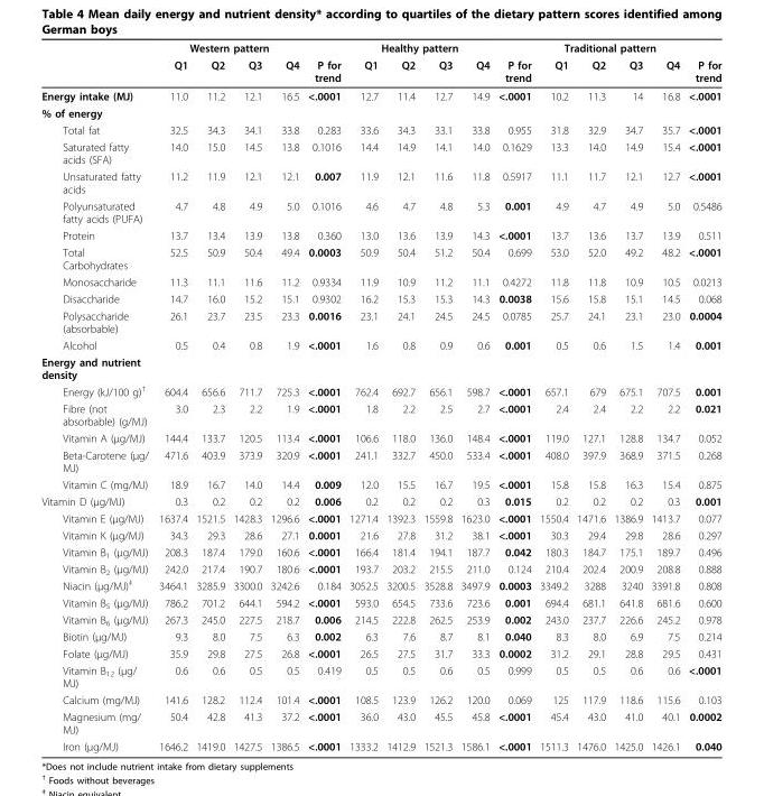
<table><thead><tr><td rowspan="2"></td><td colspan="4">Western pattern</td><td rowspan="2">P for trend</td><td colspan="4">Healthy pattern</td><td rowspan="2">P for trend</td><td colspan="4">Traditional pattern</td><td rowspan="2">P for trend</td></tr><tr><td>Q1</td><td>Q2</td><td>Q3</td><td>Q4</td><td>Q1</td><td>Q2</td><td>Q3</td><td>Q4</td><td>Q1</td><td>Q2</td><td>Q3</td><td>Q4</td></tr></thead><tbody><tr><td>Energy intake (MJ)</td><td>11.0</td><td>11.2</td><td>12.1</td><td>16.5</td><td>&lt;.0001</td><td>12.7</td><td>11.4</td><td>12.7</td><td>14.9</td><td>&lt;.0001</td><td>10.2</td><td>11.3</td><td>14</td><td>16.8</td><td>&lt;.0001</td></tr><tr><td colspan="16">% of energy</td></tr><tr><td>Total fat</td><td>32.5</td><td>34.3</td><td>34.1</td><td>33.8</td><td>0.283</td><td>33.6</td><td>34.3</td><td>33.1</td><td>33.8</td><td>0.955</td><td>31.8</td><td>32.9</td><td>34.7</td><td>35.7</td><td>&lt;.0001</td></tr><tr><td>Saturated fatty acids (SFA)</td><td>14.0</td><td>15.0</td><td>14.5</td><td>13.8</td><td>0.1016</td><td>14.4</td><td>14.9</td><td>14.1</td><td>14.0</td><td>0.1629</td><td>13.3</td><td>14.0</td><td>14.9</td><td>15.4</td><td>&lt;.0001</td></tr><tr><td>Unsaturated fatty acids</td><td>11.2</td><td>11.9</td><td>12.1</td><td>12.1</td><td>0.007</td><td>11.9</td><td>12.1</td><td>11.6</td><td>11.8</td><td>0.5917</td><td>11.1</td><td>11.7</td><td>12.1</td><td>12.7</td><td>&lt;.0001</td></tr><tr><td>Polyunsaturated fatty acids (PUFA)</td><td>4.7</td><td>4.8</td><td>4.9</td><td>5.0</td><td>0.1016</td><td>4.6</td><td>4.7</td><td>4.8</td><td>5.3</td><td>0.001</td><td>4.9</td><td>4.7</td><td>4.9</td><td>5.0</td><td>0.5486</td></tr><tr><td>Protein</td><td>13.7</td><td>13.4</td><td>13.9</td><td>13.8</td><td>0.360</td><td>13.0</td><td>13.6</td><td>13.9</td><td>14.3</td><td>&lt;.0001</td><td>13.7</td><td>13.6</td><td>13.7</td><td>13.9</td><td>0.511</td></tr><tr><td>Total Carbohydrates</td><td>52.5</td><td>50.9</td><td>50.4</td><td>49.4</td><td>0.0003</td><td>50.9</td><td>50.4</td><td>51.2</td><td>50.4</td><td>0.699</td><td>53.0</td><td>52.0</td><td>49.2</td><td>48.2</td><td>&lt;.0001</td></tr><tr><td>Monosaccharide</td><td>11.3</td><td>11.1</td><td>11.6</td><td>11.2</td><td>0.9334</td><td>11.9</td><td>10.9</td><td>11.2</td><td>11.1</td><td>0.4272</td><td>11.8</td><td>11.8</td><td>10.9</td><td>10.5</td><td>0.0213</td></tr><tr><td>Disaccharide</td><td>14.7</td><td>16.0</td><td>15.2</td><td>15.1</td><td>0.9302</td><td>16.2</td><td>15.3</td><td>15.3</td><td>14.3</td><td>0.0038</td><td>15.6</td><td>15.8</td><td>15.1</td><td>14.5</td><td>0.068</td></tr><tr><td>Polysaccharide (absorbable)</td><td>26.1</td><td>23.7</td><td>23.5</td><td>23.3</td><td>0.0016</td><td>23.1</td><td>24.1</td><td>24.5</td><td>24.5</td><td>0.0785</td><td>25.7</td><td>24.1</td><td>23.1</td><td>23.0</td><td>0.0004</td></tr><tr><td>Alcohol</td><td>0.5</td><td>0.4</td><td>0.8</td><td>1.9</td><td>&lt;.0001</td><td>1.6</td><td>0.8</td><td>0.9</td><td>0.6</td><td>0.001</td><td>0.5</td><td>0.6</td><td>1.5</td><td>1.4</td><td>0.001</td></tr><tr><td colspan="16">Energy and nutrient density</td></tr><tr><td>Energy (kJ/100 g)<sup>†</sup></td><td>604.4</td><td>656.6</td><td>711.7</td><td>725.3</td><td>&lt;.0001</td><td>762.4</td><td>692.7</td><td>656.1</td><td>598.7</td><td>&lt;.0001</td><td>657.1</td><td>679</td><td>675.1</td><td>707.5</td><td>0.001</td></tr><tr><td>Fibre (not absorbable) (g/MJ)</td><td>3.0</td><td>2.3</td><td>2.2</td><td>1.9</td><td>&lt;.0001</td><td>1.8</td><td>2.2</td><td>2.5</td><td>2.7</td><td>&lt;.0001</td><td>2.4</td><td>2.4</td><td>2.2</td><td>2.2</td><td>0.021</td></tr><tr><td>Vitamin A (μg/MJ)</td><td>144.4</td><td>133.7</td><td>120.5</td><td>113.4</td><td>&lt;.0001</td><td>106.6</td><td>118.0</td><td>136.0</td><td>148.4</td><td>&lt;.0001</td><td>119.0</td><td>127.1</td><td>128.8</td><td>134.7</td><td>0.052</td></tr><tr><td>Beta-Carotene (μg/ MJ)</td><td>471.6</td><td>403.9</td><td>373.9</td><td>320.9</td><td>&lt;.0001</td><td>241.1</td><td>332.7</td><td>450.0</td><td>533.4</td><td>&lt;.0001</td><td>408.0</td><td>397.9</td><td>368.9</td><td>371.5</td><td>0.268</td></tr><tr><td>Vitamin C (mg/MJ)</td><td>18.9</td><td>16.7</td><td>14.0</td><td>14.4</td><td>0.009</td><td>12.0</td><td>15.5</td><td>16.7</td><td>19.5</td><td>&lt;.0001</td><td>15.8</td><td>15.8</td><td>16.3</td><td>15.4</td><td>0.875</td></tr><tr><td>Vitamin D (μg/MJ)</td><td>0.3</td><td>0.2</td><td>0.2</td><td>0.2</td><td>0.006</td><td>0.2</td><td>0.2</td><td>0.2</td><td>0.3</td><td>0.015</td><td>0.2</td><td>0.2</td><td>0.2</td><td>0.3</td><td>0.001</td></tr><tr><td>Vitamin E (μg/MJ)</td><td>1637.4</td><td>1521.5</td><td>1428.3</td><td>1296.6</td><td>&lt;.0001</td><td>1271.4</td><td>1392.3</td><td>1559.8</td><td>1623.0</td><td>&lt;.0001</td><td>1550.4</td><td>1471.6</td><td>1386.9</td><td>1413.7</td><td>0.077</td></tr><tr><td>Vitamin K (μg/MJ)</td><td>34.3</td><td>29.3</td><td>28.6</td><td>27.1</td><td>0.0001</td><td>21.6</td><td>27.8</td><td>31.2</td><td>38.1</td><td>&lt;.0001</td><td>30.3</td><td>29.4</td><td>29.8</td><td>28.6</td><td>0.297</td></tr><tr><td>Vitamin B<sub>1</sub> (μg/MJ)</td><td>208.3</td><td>187.4</td><td>179.0</td><td>160.6</td><td>&lt;.0001</td><td>166.4</td><td>181.4</td><td>194.1</td><td>187.7</td><td>0.042</td><td>180.3</td><td>184.7</td><td>175.1</td><td>189.7</td><td>0.496</td></tr><tr><td>Vitamin B<sub>2</sub> (μg/MJ)</td><td>242.0</td><td>217.4</td><td>190.7</td><td>180.6</td><td>&lt;.0001</td><td>193.7</td><td>203.2</td><td>215.5</td><td>211.0</td><td>0.124</td><td>210.4</td><td>202.4</td><td>200.9</td><td>208.8</td><td>0.888</td></tr><tr><td>Niacin (μg/MJ)<sup>‡</sup></td><td>3464.1</td><td>3285.9</td><td>3300.0</td><td>3242.6</td><td>0.184</td><td>3052.5</td><td>3200.5</td><td>3528.8</td><td>3497.9</td><td>0.0003</td><td>3349.2</td><td>3288</td><td>3240</td><td>3391.8</td><td>0.808</td></tr><tr><td>Vitamin B<sub>5</sub> (μg/MJ)</td><td>786.2</td><td>701.2</td><td>644.1</td><td>594.2</td><td>&lt;.0001</td><td>593.0</td><td>654.5</td><td>733.6</td><td>723.6</td><td>0.001</td><td>694.4</td><td>681.1</td><td>641.8</td><td>681.6</td><td>0.600</td></tr><tr><td>Vitamin B<sub>6</sub> (μg/MJ)</td><td>267.3</td><td>245.0</td><td>227.5</td><td>218.7</td><td>0.006</td><td>214.5</td><td>222.8</td><td>262.5</td><td>253.9</td><td>0.002</td><td>243.0</td><td>237.7</td><td>226.6</td><td>245.2</td><td>0.978</td></tr><tr><td>Biotin (μg/MJ)</td><td>9.3</td><td>8.0</td><td>7.5</td><td>6.3</td><td>0.002</td><td>6.3</td><td>7.6</td><td>8.7</td><td>8.1</td><td>0.040</td><td>8.3</td><td>8.0</td><td>6.9</td><td>7.5</td><td>0.214</td></tr><tr><td>Folate (μg/MJ)</td><td>35.9</td><td>29.8</td><td>27.5</td><td>26.8</td><td>&lt;.0001</td><td>26.5</td><td>27.5</td><td>31.7</td><td>33.3</td><td>0.0002</td><td>31.2</td><td>29.1</td><td>28.8</td><td>29.5</td><td>0.431</td></tr><tr><td>Vitamin B<sub>12</sub> (μg/ MJ)</td><td>0.6</td><td>0.6</td><td>0.5</td><td>0.5</td><td>0.419</td><td>0.5</td><td>0.5</td><td>0.6</td><td>0.5</td><td>0.999</td><td>0.5</td><td>0.5</td><td>0.6</td><td>0.6</td><td>&lt;.0001</td></tr><tr><td>Calcium (mg/MJ)</td><td>141.6</td><td>128.2</td><td>112.4</td><td>101.4</td><td>&lt;.0001</td><td>108.5</td><td>123.9</td><td>126.2</td><td>120.0</td><td>0.069</td><td>125</td><td>117.9</td><td>118.6</td><td>115.6</td><td>0.103</td></tr><tr><td>Magnesium (mg/ MJ)</td><td>50.4</td><td>42.8</td><td>41.3</td><td>37.2</td><td>&lt;.0001</td><td>36.0</td><td>43.0</td><td>45.5</td><td>45.8</td><td>&lt;.0001</td><td>45.4</td><td>43.0</td><td>41.0</td><td>40.1</td><td>0.0002</td></tr><tr><td>Iron (μg/MJ)</td><td>1646.2</td><td>1419.0</td><td>1427.5</td><td>1386.5</td><td>&lt;.0001</td><td>1333.2</td><td>1412.9</td><td>1521.3</td><td>1586.1</td><td>&lt;.0001</td><td>1511.3</td><td>1476.0</td><td>1425.0</td><td>1426.1</td><td>0.040</td></tr></tbody></table>